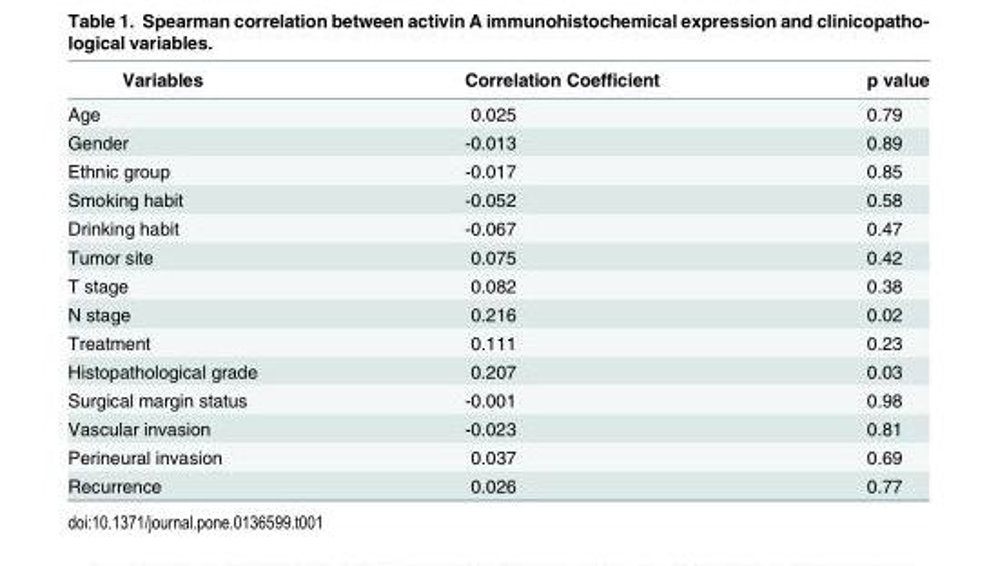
<table><thead><tr><td>Variables</td><td>Correlation Coefficient</td><td>p value</td></tr></thead><tbody><tr><td>Age</td><td>0.025</td><td>0.79</td></tr><tr><td>Gender</td><td>-0.013</td><td>0.89</td></tr><tr><td>Ethnic group</td><td>-0.017</td><td>0.85</td></tr><tr><td>Smoking habit</td><td>-0.052</td><td>0.58</td></tr><tr><td>Drinking habit</td><td>-0.067</td><td>0.47</td></tr><tr><td>Tumor site</td><td>0.075</td><td>0.42</td></tr><tr><td>T stage</td><td>0.082</td><td>0.38</td></tr><tr><td>N stage</td><td>0.216</td><td>0.02</td></tr><tr><td>Treatment</td><td>0.111</td><td>0.23</td></tr><tr><td>Histopathological grade</td><td>0.207</td><td>0.03</td></tr><tr><td>Surgical margin status</td><td>-0.001</td><td>0.98</td></tr><tr><td>Vascular invasion</td><td>-0.023</td><td>0.81</td></tr><tr><td>Perineural invasion</td><td>0.037</td><td>0.69</td></tr><tr><td>Recurrence</td><td>0.026</td><td>0.77</td></tr></tbody></table>